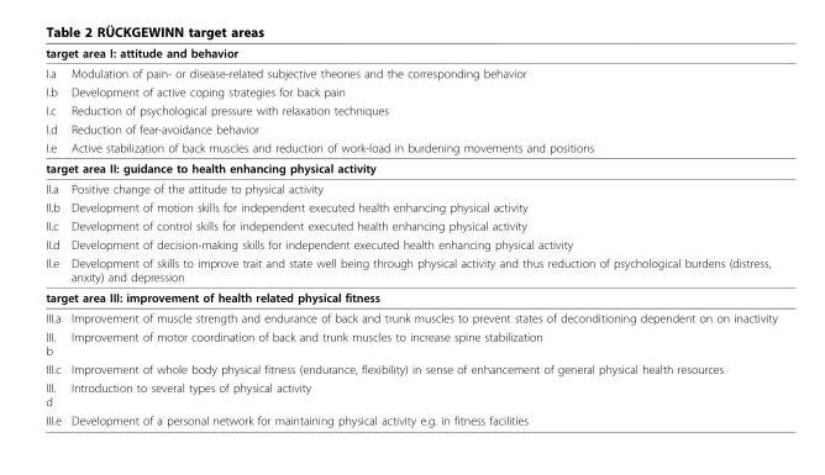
<table><thead><tr><td colspan="2">target area I: attitude and behavior</td></tr><tr><td>I.a</td><td>Modulation of pain- or disease-related subjective theories and the corresponding behavior</td></tr></thead><tbody><tr><td>I.b</td><td>Development of active coping strategies for back pain</td></tr><tr><td>I.c</td><td>Reduction of psychological pressure with relaxation techniques</td></tr><tr><td>I.d</td><td>Reduction of fear-avoidance behavior</td></tr><tr><td>I.e</td><td>Active stabilization of back muscles and reduction of work-load in burdening movements and positions</td></tr><tr><td colspan="2">target area II: guidance to health enhancing physical activity</td></tr><tr><td>II.a</td><td>Positive change of the attitude to physical activity</td></tr><tr><td>II.b</td><td>Development of motion skills for independent executed health enhancing physical activity</td></tr><tr><td>II.c</td><td>Development of control skills for independent executed health enhancing physical activity</td></tr><tr><td>II.d</td><td>Development of decision-making skills for independent executed health enhancing physical activity</td></tr><tr><td>II.e</td><td>Development of skills to improve trait and state well being through physical activity and thus reduction of psychological burdens (distress, anxity) and depression</td></tr><tr><td colspan="2">target area III: improvement of health related physical fitness</td></tr><tr><td>III.a</td><td>Improvement of muscle strength and endurance of back and trunk muscles to prevent states of deconditioning dependent on on inactivity</td></tr><tr><td>III. b</td><td>Improvement of motor coordination of back and trunk muscles to increase spine stabilization</td></tr><tr><td>III.c</td><td>Improvement of whole body physical fitness (endurance, flexibility) in sense of enhancement of general physical health resources</td></tr><tr><td>III. d</td><td>Introduction to several types of physical activity</td></tr><tr><td>III.e</td><td>Development of a personal network for maintaining physical activity e.g. in fitness facilities</td></tr></tbody></table>